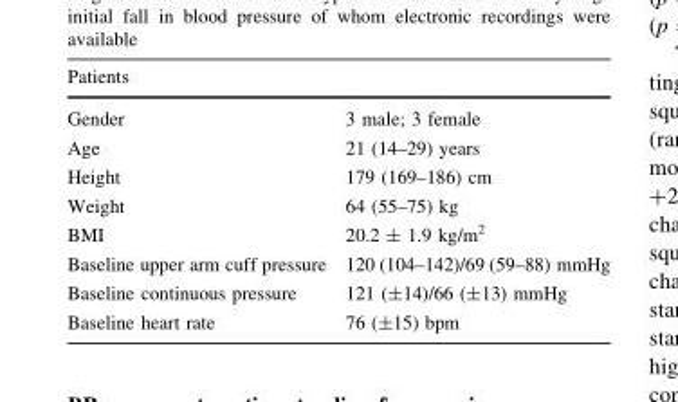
<table><thead><tr><td>Patients</td><td></td></tr></thead><tbody><tr><td>Gender</td><td>3 male; 3 female</td></tr><tr><td>Age</td><td>21 (14–29) years</td></tr><tr><td>Height</td><td>179 (169–186) cm</td></tr><tr><td>Weight</td><td>64 (55–75) kg</td></tr><tr><td>BMI</td><td>20.2 ± 1.9 kg/m<sup>2</sup></td></tr><tr><td>Baseline upper arm cuff pressure</td><td>120 (104–142)/69 (59–88) mmHg</td></tr><tr><td>Baseline continuous pressure</td><td>121 (±14)/66 (±13) mmHg</td></tr><tr><td>Baseline heart rate</td><td>76 (±15) bpm</td></tr></tbody></table>